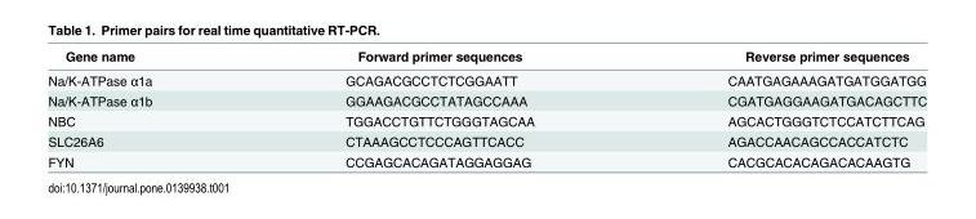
<table><thead><tr><td>Gene name</td><td>Forward primer sequences</td><td>Reverse primer sequences</td></tr></thead><tbody><tr><td>Na/K-ATPase α1a</td><td>GCAGACGCCTCTCGGAATT</td><td>CAATGAGAAAGATGATGGATGG</td></tr><tr><td>Na/K-ATPase α1b</td><td>GGAAGACGCCTATAGCCAAA</td><td>CGATGAGGAAGATGACAGCTTC</td></tr><tr><td>NBC</td><td>TGGACCTGTTCTGGGTAGCAA</td><td>AGCACTGGGTCTCCATCTTCAG</td></tr><tr><td>SLC26A6</td><td>CTAAAGCCTCCCAGTTCACC</td><td>AGACCAACAGCCACCATCTC</td></tr><tr><td>FYN</td><td>CCGAGCACAGATAGGAGGAG</td><td>CACGCACACAGACACAAGTG</td></tr></tbody></table>